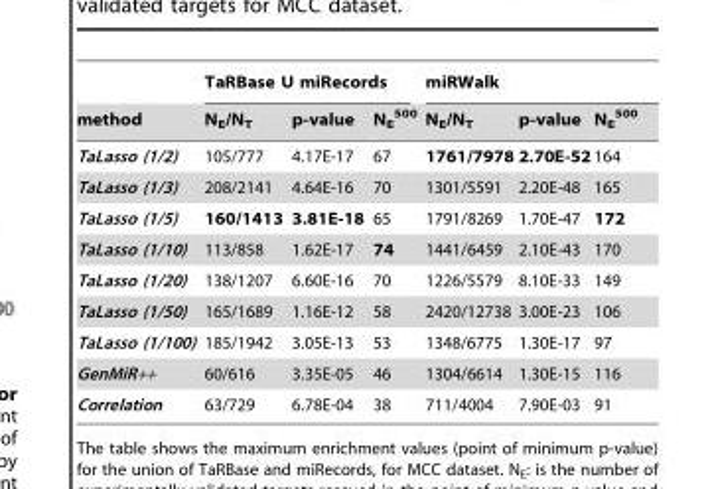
<table><thead><tr><td rowspan="2">method</td><td colspan="3">TaRBase U miRecords</td><td colspan="3">miRWalk</td></tr><tr><td>N<sub>E</sub>/N<sub>T</sub></td><td>p-value</td><td>N<sub>E</sub> <sup>500</sup></td><td>N<sub>E</sub>/N<sub>T</sub></td><td>p-value</td><td>N<sub>E</sub> <sup>500</sup></td></tr></thead><tbody><tr><td>TaLasso (1/2)</td><td>105/777</td><td>4.17E-17</td><td>67</td><td>1761/7978</td><td>2.70E-52</td><td>164</td></tr><tr><td>TaLasso (1/3)</td><td>208/2141</td><td>4.64E-16</td><td>70</td><td>1301/5591</td><td>2.20E-48</td><td>165</td></tr><tr><td>TaLasso (1/5)</td><td>160/1413</td><td>3.81E-18</td><td>65</td><td>1791/8269</td><td>1.70E-47</td><td>172</td></tr><tr><td>TaLasso (1/10)</td><td>113/858</td><td>1.62E-17</td><td>74</td><td>1441/6459</td><td>2.10E-43</td><td>170</td></tr><tr><td>TaLasso (1/20)</td><td>138/1207</td><td>6.60E-16</td><td>70</td><td>1226/5579</td><td>8.10E-33</td><td>149</td></tr><tr><td>TaLasso (1/50)</td><td>165/1689</td><td>1.16E-12</td><td>58</td><td>2420/12738</td><td>3.00E-23</td><td>106</td></tr><tr><td>TaLasso (1/100)</td><td>185/1942</td><td>3.05E-13</td><td>53</td><td>1348/6775</td><td>1.30E-17</td><td>97</td></tr><tr><td>GenMiR++</td><td>60/616</td><td>3.35E-05</td><td>46</td><td>1304/6614</td><td>1.30E-15</td><td>116</td></tr><tr><td>Correlation</td><td>63/729</td><td>6.78E-04</td><td>38</td><td>711/4004</td><td>7.90E-03</td><td>91</td></tr></tbody></table>